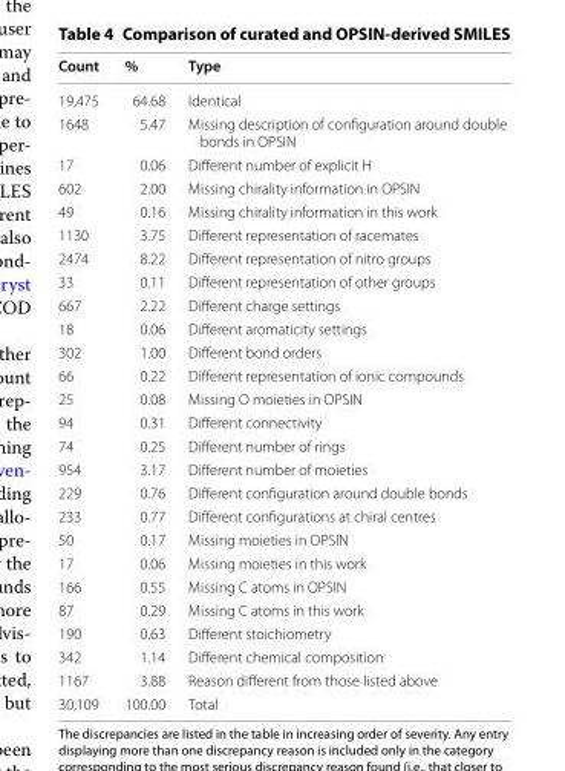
<table><thead><tr><td>Count</td><td>%</td><td>Type</td></tr></thead><tbody><tr><td>19,475</td><td>64.68</td><td>Identical</td></tr><tr><td>1648</td><td>5.47</td><td>Missing description of configuration around double bonds in OPSIN</td></tr><tr><td>17</td><td>0.06</td><td>Different number of explicit H</td></tr><tr><td>602</td><td>2.00</td><td>Missing chirality information in OPSIN</td></tr><tr><td>49</td><td>0.16</td><td>Missing chirality information in this work</td></tr><tr><td>1130</td><td>3.75</td><td>Different representation of racemates</td></tr><tr><td>2474</td><td>8.22</td><td>Different representation of nitro groups</td></tr><tr><td>33</td><td>0.11</td><td>Different representation of other groups</td></tr><tr><td>667</td><td>2.22</td><td>Different charge settings</td></tr><tr><td>18</td><td>0.06</td><td>Different aromaticity settings</td></tr><tr><td>302</td><td>1.00</td><td>Different bond orders</td></tr><tr><td>66</td><td>0.22</td><td>Different representation of ionic compounds</td></tr><tr><td>25</td><td>0.08</td><td>Missing O moieties in OPSIN</td></tr><tr><td>94</td><td>0.31</td><td>Different connectivity</td></tr><tr><td>74</td><td>0.25</td><td>Different number of rings</td></tr><tr><td>954</td><td>3.17</td><td>Different number of moieties</td></tr><tr><td>229</td><td>0.76</td><td>Different configuration around double bonds</td></tr><tr><td>233</td><td>0.77</td><td>Different configurations at chiral centres</td></tr><tr><td>50</td><td>0.17</td><td>Missing moieties in OPSIN</td></tr><tr><td>17</td><td>0.06</td><td>Missing moieties in this work</td></tr><tr><td>166</td><td>0.55</td><td>Missing C atoms in OPSIN</td></tr><tr><td>87</td><td>0.29</td><td>Missing C atoms in this work</td></tr><tr><td>190</td><td>0.63</td><td>Different stoichiometry</td></tr><tr><td>342</td><td>1.14</td><td>Different chemical composition</td></tr><tr><td>1167</td><td>3.88</td><td>Reason different from those listed above</td></tr><tr><td>30,109</td><td>100.00</td><td>Total</td></tr></tbody></table>